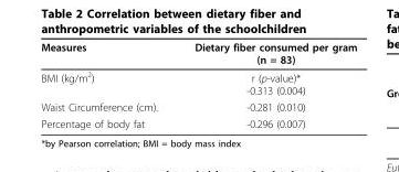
<table><thead><tr><td>Measures</td><td>Dietary fiber consumed per gram (n = 83)</td></tr></thead><tbody><tr><td>BMI (kg/m<sup>2</sup>)</td><td>r (p-value)* -0.313 (0.004)</td></tr><tr><td>Waist Circumference (cm).</td><td>-0.281 (0.010)</td></tr><tr><td>Percentage of body fat</td><td>-0.296 (0.007)</td></tr></tbody></table>